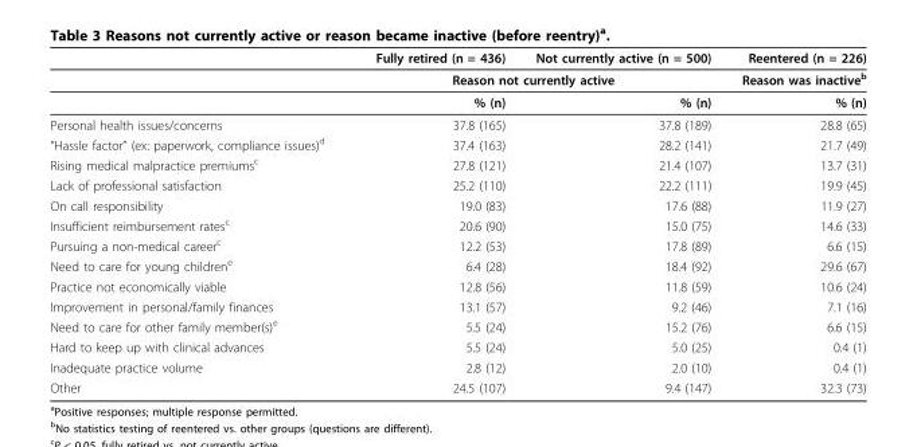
<table><thead><tr><td></td><td>Fully retired (n = 436)</td><td>Not currently active (n = 500)</td><td>Reentered (n = 226)</td></tr></thead><tbody><tr><td></td><td colspan="2">Reason not currently active</td><td>Reason was inactive<sup>b</sup></td></tr><tr><td></td><td>% (n)</td><td>% (n)</td><td>% (n)</td></tr><tr><td>Personal health issues/concerns</td><td>37.8 (165)</td><td>37.8 (189)</td><td>28.8 (65)</td></tr><tr><td>“Hassle factor” (ex: paperwork, compliance issues)d</td><td>37.4 (163)</td><td>28.2 (141)</td><td>21.7 (49)</td></tr><tr><td>Rising medical malpractice premiums<sup>c</sup></td><td>27.8 (121)</td><td>21.4 (107)</td><td>13.7 (31)</td></tr><tr><td>Lack of professional satisfaction</td><td>25.2 (110)</td><td>22.2 (111)</td><td>19.9 (45)</td></tr><tr><td>On call responsibility</td><td>19.0 (83)</td><td>17.6 (88)</td><td>11.9 (27)</td></tr><tr><td>Insufficient reimbursement rates<sup>c</sup></td><td>20.6 (90)</td><td>15.0 (75)</td><td>14.6 (33)</td></tr><tr><td>Pursuing a non-medical career<sup>c</sup></td><td>12.2 (53)</td><td>17.8 (89)</td><td>6.6 (15)</td></tr><tr><td>Need to care for young children<sup>e</sup></td><td>6.4 (28)</td><td>18.4 (92)</td><td>29.6 (67)</td></tr><tr><td>Practice not economically viable</td><td>12.8 (56)</td><td>11.8 (59)</td><td>10.6 (24)</td></tr><tr><td>Improvement in personal/family finances</td><td>13.1 (57)</td><td>9.2 (46)</td><td>7.1 (16)</td></tr><tr><td>Need to care for other family member(s)<sup>e</sup></td><td>5.5 (24)</td><td>15.2 (76)</td><td>6.6 (15)</td></tr><tr><td>Hard to keep up with clinical advances</td><td>5.5 (24)</td><td>5.0 (25)</td><td>0.4 (1)</td></tr><tr><td>Inadequate practice volume</td><td>2.8 (12)</td><td>2.0 (10)</td><td>0.4 (1)</td></tr><tr><td>Other</td><td>24.5 (107)</td><td>9.4 (147)</td><td>32.3 (73)</td></tr></tbody></table>